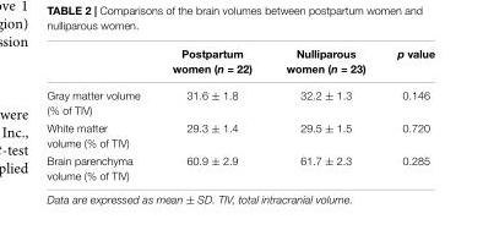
<table><thead><tr><td></td><td>Postpartum women (n = 22)</td><td>Nulliparous women (n = 23)</td><td>p value</td></tr></thead><tbody><tr><td>Gray matter volume (% of TIV)</td><td>31.6 ± 1.8</td><td>32.2 ± 1.3</td><td>0.146</td></tr><tr><td>White matter volume (% of TIV)</td><td>29.3 ± 1.4</td><td>29.5 ± 1.5</td><td>0.720</td></tr><tr><td>Brain parenchyma volume (% of TIV)</td><td>60.9 ± 2.9</td><td>61.7 ± 2.3</td><td>0.285</td></tr></tbody></table>